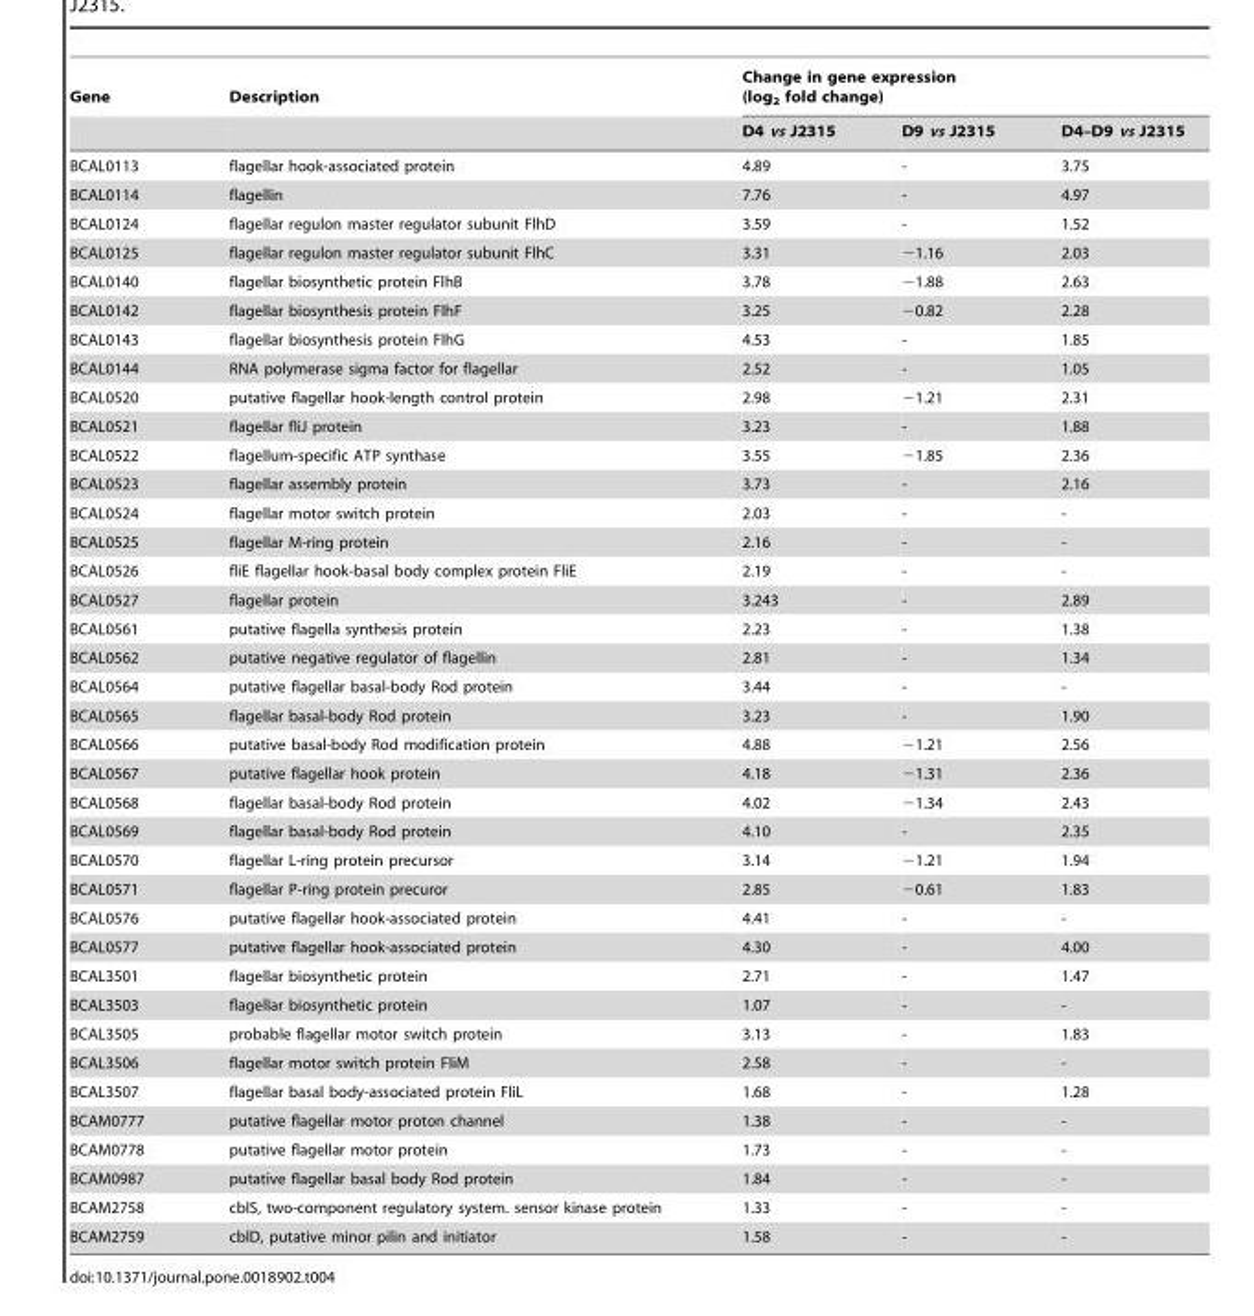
<table><thead><tr><td rowspan="2">Gene</td><td rowspan="2">Description</td><td colspan="3">Change in gene expression (log<sub>2</sub> fold change)</td></tr><tr><td>D4 vs J2315</td><td>D9 vs J2315</td><td>D4–D9 vs J2315</td></tr></thead><tbody><tr><td>BCAL0113</td><td>flagellar hook-associated protein</td><td>4.89</td><td>-</td><td>3.75</td></tr><tr><td>BCAL0114</td><td>flagellin</td><td>7.76</td><td>-</td><td>4.97</td></tr><tr><td>BCAL0124</td><td>flagellar regulon master regulator subunit FlhD</td><td>3.59</td><td>-</td><td>1.52</td></tr><tr><td>BCAL0125</td><td>flagellar regulon master regulator subunit FlhC</td><td>3.31</td><td>−1.16</td><td>2.03</td></tr><tr><td>BCAL0140</td><td>flagellar biosynthetic protein FlhB</td><td>3.78</td><td>−1.88</td><td>2.63</td></tr><tr><td>BCAL0142</td><td>flagellar biosynthesis protein FlhF</td><td>3.25</td><td>−0.82</td><td>2.28</td></tr><tr><td>BCAL0143</td><td>flagellar biosynthesis protein FlhG</td><td>4.53</td><td>-</td><td>1.85</td></tr><tr><td>BCAL0144</td><td>RNA polymerase sigma factor for flagellar</td><td>2.52</td><td>-</td><td>1.05</td></tr><tr><td>BCAL0520</td><td>putative flagellar hook-length control protein</td><td>2.98</td><td>−1.21</td><td>2.31</td></tr><tr><td>BCAL0521</td><td>flagellar fliJ protein</td><td>3.23</td><td>-</td><td>1.88</td></tr><tr><td>BCAL0522</td><td>flagellum-specific ATP synthase</td><td>3.55</td><td>−1.85</td><td>2.36</td></tr><tr><td>BCAL0523</td><td>flagellar assembly protein</td><td>3.73</td><td>-</td><td>2.16</td></tr><tr><td>BCAL0524</td><td>flagellar motor switch protein</td><td>2.03</td><td>-</td><td>-</td></tr><tr><td>BCAL0525</td><td>flagellar M-ring protein</td><td>2.16</td><td>-</td><td>-</td></tr><tr><td>BCAL0526</td><td>fliE flagellar hook-basal body complex protein FliE</td><td>2.19</td><td>-</td><td>-</td></tr><tr><td>BCAL0527</td><td>flagellar protein</td><td>3.243</td><td>-</td><td>2.89</td></tr><tr><td>BCAL0561</td><td>putative flagella synthesis protein</td><td>2.23</td><td>-</td><td>1.38</td></tr><tr><td>BCAL0562</td><td>putative negative regulator of flagellin</td><td>2.81</td><td>-</td><td>1.34</td></tr><tr><td>BCAL0564</td><td>putative flagellar basal-body Rod protein</td><td>3.44</td><td>-</td><td>-</td></tr><tr><td>BCAL0565</td><td>flagellar basal-body Rod protein</td><td>3.23</td><td>-</td><td>1.90</td></tr><tr><td>BCAL0566</td><td>putative basal-body Rod modification protein</td><td>4.88</td><td>−1.21</td><td>2.56</td></tr><tr><td>BCAL0567</td><td>putative flagellar hook protein</td><td>4.18</td><td>−1.31</td><td>2.36</td></tr><tr><td>BCAL0568</td><td>flagellar basal-body Rod protein</td><td>4.02</td><td>−1.34</td><td>2.43</td></tr><tr><td>BCAL0569</td><td>flagellar basal-body Rod protein</td><td>4.10</td><td>-</td><td>2.35</td></tr><tr><td>BCAL0570</td><td>flagellar L-ring protein precursor</td><td>3.14</td><td>−1.21</td><td>1.94</td></tr><tr><td>BCAL0571</td><td>flagellar P-ring protein precuror</td><td>2.85</td><td>−0.61</td><td>1.83</td></tr><tr><td>BCAL0576</td><td>putative flagellar hook-associated protein</td><td>4.41</td><td>-</td><td>-</td></tr><tr><td>BCAL0577</td><td>putative flagellar hook-associated protein</td><td>4.30</td><td>-</td><td>4.00</td></tr><tr><td>BCAL3501</td><td>flagellar biosynthetic protein</td><td>2.71</td><td>-</td><td>1.47</td></tr><tr><td>BCAL3503</td><td>flagellar biosynthetic protein</td><td>1.07</td><td>-</td><td>-</td></tr><tr><td>BCAL3505</td><td>probable flagellar motor switch protein</td><td>3.13</td><td>-</td><td>1.83</td></tr><tr><td>BCAL3506</td><td>flagellar motor switch protein FliM</td><td>2.58</td><td>-</td><td>-</td></tr><tr><td>BCAL3507</td><td>flagellar basal body-associated protein FliL</td><td>1.68</td><td>-</td><td>1.28</td></tr><tr><td>BCAM0777</td><td>putative flagellar motor proton channel</td><td>1.38</td><td>-</td><td>-</td></tr><tr><td>BCAM0778</td><td>putative flagellar motor protein</td><td>1.73</td><td>-</td><td>-</td></tr><tr><td>BCAM0987</td><td>putative flagellar basal body Rod protein</td><td>1.84</td><td>-</td><td>-</td></tr><tr><td>BCAM2758</td><td>cblS, two-component regulatory system. sensor kinase protein</td><td>1.33</td><td>-</td><td>-</td></tr><tr><td>BCAM2759</td><td>cblD, putative minor pilin and initiator</td><td>1.58</td><td>-</td><td>-</td></tr></tbody></table>